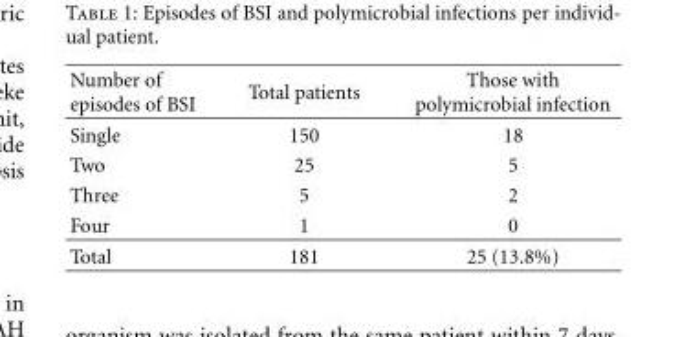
<table><thead><tr><td>Number of episodes of BSI</td><td>Total patients</td><td>Those with polymicrobial infection</td></tr></thead><tbody><tr><td>Single</td><td>150</td><td>18</td></tr><tr><td>Two</td><td>25</td><td>5</td></tr><tr><td>Three</td><td>5</td><td>2</td></tr><tr><td>Four</td><td>1</td><td>0</td></tr><tr><td>Total</td><td>181</td><td>25 (13.8%)</td></tr></tbody></table>